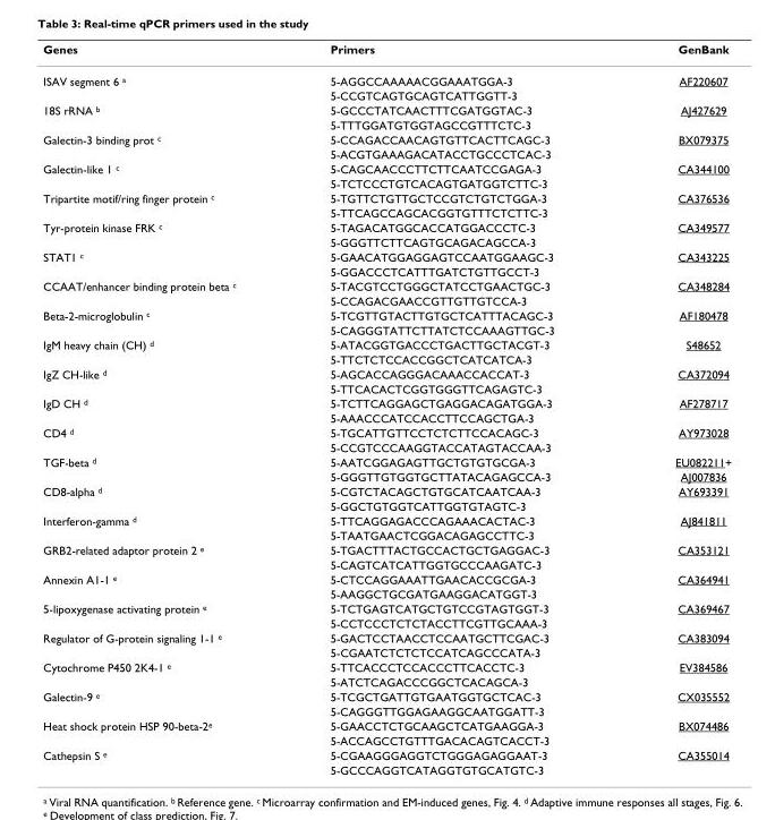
<table><thead><tr><td>Genes</td><td>Primers</td><td>GenBank</td></tr></thead><tbody><tr><td rowspan="2">ISAV segment 6 <sup>a</sup></td><td>5-AGGCCAAAAACGGAAATGGA-3</td><td>AF220607</td></tr><tr><td>5-CCGTCAGTGCAGTCATTGGTT-3</td><td></td></tr><tr><td rowspan="2">18S rRNA <sup>b</sup></td><td>5-GCCCTATCAACTTTCGATGGTAC-3</td><td>AJ427629</td></tr><tr><td>5-TTTGGATGTGGTAGCCGTTTCTC-3</td><td></td></tr><tr><td rowspan="2">Galectin-3 binding prot <sup>c</sup></td><td>5-CCAGACCAACAGTGTTCACTTCAGC-3</td><td>BX079375</td></tr><tr><td>5-ACGTGAAAGACATACCTGCCCTCAC-3</td><td></td></tr><tr><td rowspan="2">Galectin-like 1 <sup>c</sup></td><td>5-CAGCAACCCTTCTTCAATCCGAGA-3</td><td>CA344100</td></tr><tr><td>5-TCTCCCTGTCACAGTGATGGTCTTC-3</td><td></td></tr><tr><td rowspan="2">Tripartite motif/ring finger protein <sup>c</sup></td><td>5-TGTTCTGTTGCTCCGTCTGTCTGGA-3</td><td>CA376536</td></tr><tr><td>5-TTCAGCCAGCACGGTGTTTCTCTTC-3</td><td></td></tr><tr><td rowspan="2">Tyr-protein kinase FRK <sup>c</sup></td><td>5-TAGACATGGCACCATGGACCCTC-3</td><td>CA349577</td></tr><tr><td>5-GGGTTCTTCAGTGCAGACAGCCA-3</td><td></td></tr><tr><td rowspan="2">STAT1 <sup>c</sup></td><td>5-GAACATGGAGGAGTCCAATGGAAGC-3</td><td>CA343225</td></tr><tr><td>5-GGACCCTCATTTGATCTGTTGCCT-3</td><td></td></tr><tr><td rowspan="2">CCAAT/enhancer binding protein beta <sup>c</sup></td><td>5-TACGTCCTGGGCTATCCTGAACTGC-3</td><td>CA348284</td></tr><tr><td>5-CCAGACGAACCGTTGTTGTCCA-3</td><td></td></tr><tr><td rowspan="2">Beta-2-microglobulin <sup>c</sup></td><td>5-TCGTTGTACTTGTGCTCATTTACAGC-3</td><td>AF180478</td></tr><tr><td>5-CAGGGTATTCTTATCTCCAAAGTTGC-3</td><td></td></tr><tr><td rowspan="2">IgM heavy chain (CH) <sup>d</sup></td><td>5-ATACGGTGACCCTGACTTGCTACGT-3</td><td>S48652</td></tr><tr><td>5-TTCTCTCCACCGGCTCATCATCA-3</td><td></td></tr><tr><td rowspan="2">IgZ CH-like <sup>d</sup></td><td>5-AGCACCAGGGACAAACCACCAT-3</td><td>CA372094</td></tr><tr><td>5-TTCACACTCGGTGGGTTCAGAGTC-3</td><td></td></tr><tr><td rowspan="2">IgD CH <sup>d</sup></td><td>5-TCTTCAGGAGCTGAGGACAGATGGA-3</td><td>AF278717</td></tr><tr><td>5-AAACCCATCCACCTTCCAGCTGA-3</td><td></td></tr><tr><td rowspan="2">CD4 <sup>d</sup></td><td>5-TGCATTGTTCCTCTCTTCCACAGC-3</td><td>AY973028</td></tr><tr><td>5-CCGTCCCAAGGTACCATAGTACCAA-3</td><td></td></tr><tr><td rowspan="2">TGF-beta <sup>d</sup></td><td>5-AATCGGAGAGTTGCTGTGTGCGA-3</td><td>EU082211+</td></tr><tr><td>5-GGGTTGTGGTGCTTATACAGAGCCA-3</td><td>AJ007836</td></tr><tr><td rowspan="2">CD8-alpha <sup>d</sup></td><td>5-CGTCTACAGCTGTGCATCAATCAA-3</td><td>AY693391</td></tr><tr><td>5-GGCTGTGGTCATTGGTGTAGTC-3</td><td></td></tr><tr><td rowspan="2">Interferon-gamma <sup>d</sup></td><td>5-TTCAGGAGACCCAGAAACACTAC-3</td><td>AJ841811</td></tr><tr><td>5-TAATGAACTCGGACAGAGCCTTC-3</td><td></td></tr><tr><td rowspan="2">GRB2-related adaptor protein 2 <sup>e</sup></td><td>5-TGACTTTACTGCCACTGCTGAGGAC-3</td><td>CA353121</td></tr><tr><td>5-CAGTCATCATTGGTGCCCAAGATC-3</td><td></td></tr><tr><td rowspan="2">Annexin A1-1 <sup>e</sup></td><td>5-CTCCAGGAAATTGAACACCGCGA-3</td><td>CA364941</td></tr><tr><td>5-AAGGCTGCGATGAAGGACATGGT-3</td><td></td></tr><tr><td rowspan="2">5-lipoxygenase activating protein <sup>e</sup></td><td>5-TCTGAGTCATGCTGTCCGTAGTGGT-3</td><td>CA369467</td></tr><tr><td>5-CCTCCCTCTCTACCTTCGTTGCAAA-3</td><td></td></tr><tr><td rowspan="2">Regulator of G-protein signaling 1-1 <sup>e</sup></td><td>5-GACTCCTAACCTCCAATGCTTCGAC-3</td><td>CA383094</td></tr><tr><td>5-CGAATCTCTCTCCATCAGCCCATA-3</td><td></td></tr><tr><td rowspan="2">Cytochrome P450 2K4-1 <sup>e</sup></td><td>5-TTCACCCTCCACCCTTCACCTC-3</td><td>EV384586</td></tr><tr><td>5-ATCTCAGACCCGGCTCACAGCA-3</td><td></td></tr><tr><td rowspan="2">Galectin-9 <sup>e</sup></td><td>5-TCGCTGATTGTGAATGGTGCTCAC-3</td><td>CX035552</td></tr><tr><td>5-CAGGGTTGGAGAAGGCAATGGATT-3</td><td></td></tr><tr><td rowspan="2">Heat shock protein HSP 90-beta-2<sup>e</sup></td><td>5-GAACCTCTGCAAGCTCATGAAGGA-3</td><td>BX074486</td></tr><tr><td>5-ACCAGCCTGTTTGACACAGTCACCT-3</td><td></td></tr><tr><td rowspan="2">Cathepsin S <sup>e</sup></td><td>5-CGAAGGGAGGTCTGGGAGAGGAAT-3</td><td>CA355014</td></tr><tr><td>5-GCCCAGGTCATAGGTGTGCATGTC-3</td><td></td></tr></tbody></table>